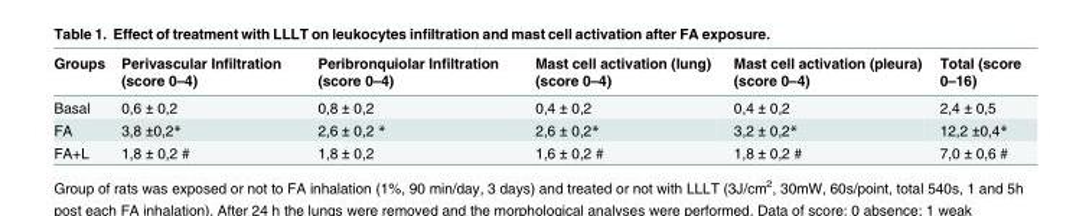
<table><thead><tr><td>Groups</td><td>Perivascular Infiltration (score 0–4)</td><td>Peribronquiolar Infiltration (score 0–4)</td><td>Mast cell activation (lung) (score 0–4)</td><td>Mast cell activation (pleura) (score 0–4)</td><td>Total (score 0–16)</td></tr></thead><tbody><tr><td>Basal</td><td>0,6 ± 0,2</td><td>0,8 ± 0,2</td><td>0,4 ± 0,2</td><td>0,4 ± 0,2</td><td>2,4 ± 0,5</td></tr><tr><td>FA</td><td>3,8 ±0,2*</td><td>2,6 ± 0,2 *</td><td>2,6 ± 0,2*</td><td>3,2 ± 0,2*</td><td>12,2 ±0,4*</td></tr><tr><td>FA+L</td><td>1,8 ± 0,2 #</td><td>1,8 ± 0,2</td><td>1,6 ± 0,2 #</td><td>1,8 ± 0,2 #</td><td>7,0 ± 0,6 #</td></tr></tbody></table>